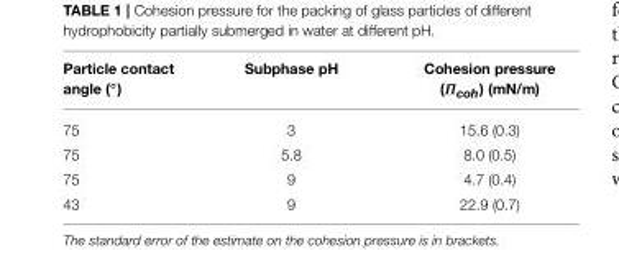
<table><thead><tr><td>Particle contact angle (◦)</td><td>Subphase pH</td><td>Cohesion pressure (Πcoh) (mN/m)</td></tr></thead><tbody><tr><td>75</td><td>3</td><td>15.6 (0.3)</td></tr><tr><td>75</td><td>5.8</td><td>8.0 (0.5)</td></tr><tr><td>75</td><td>9</td><td>4.7 (0.4)</td></tr><tr><td>43</td><td>9</td><td>22.9 (0.7)</td></tr></tbody></table>